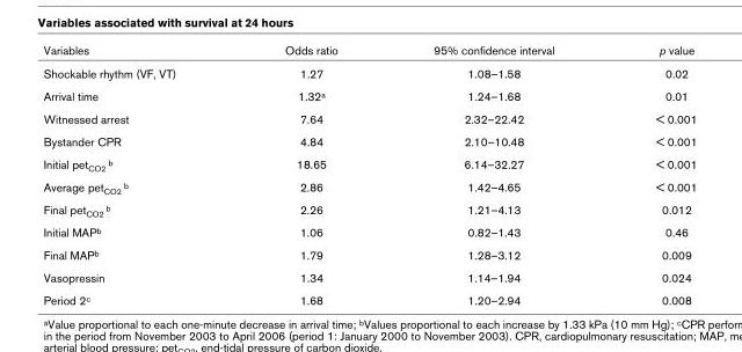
<table><thead><tr><td>Variables</td><td>Odds ratio</td><td>95% confidence interval</td><td>p value</td></tr></thead><tbody><tr><td>Shockable rhythm (VF, VT)</td><td>1.27</td><td>1.08–1.58</td><td>0.02</td></tr><tr><td>Arrival time</td><td>1.32<sup>a</sup></td><td>1.24–1.68</td><td>0.01</td></tr><tr><td>Witnessed arrest</td><td>7.64</td><td>2.32–22.42</td><td>&lt; 0.001</td></tr><tr><td>Bystander CPR</td><td>4.84</td><td>2.10–10.48</td><td>&lt; 0.001</td></tr><tr><td>Initial pet<sub>CO2</sub> <sup>b</sup></td><td>18.65</td><td>6.14–32.27</td><td>&lt; 0.001</td></tr><tr><td>Average pet<sub>CO2</sub> <sup>b</sup></td><td>2.86</td><td>1.42–4.65</td><td>&lt; 0.001</td></tr><tr><td>Final pet<sub>CO2</sub> <sup>b</sup></td><td>2.26</td><td>1.21–4.13</td><td>0.012</td></tr><tr><td>Initial MAP<sup>b</sup></td><td>1.06</td><td>0.82–1.43</td><td>0.46</td></tr><tr><td>Final MAP<sup>b</sup></td><td>1.79</td><td>1.28–3.12</td><td>0.009</td></tr><tr><td>Vasopressin</td><td>1.34</td><td>1.14–1.94</td><td>0.024</td></tr><tr><td>Period 2<sup>c</sup></td><td>1.68</td><td>1.20–2.94</td><td>0.008</td></tr></tbody></table>